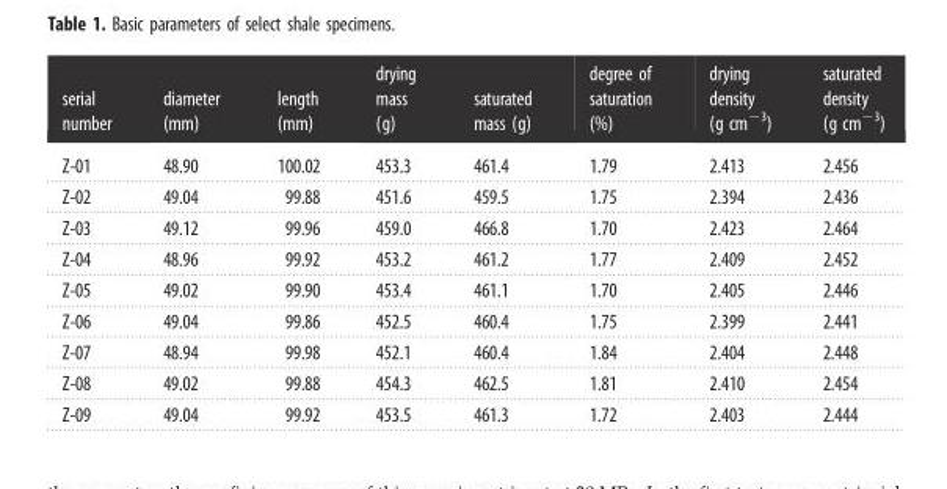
<table><thead><tr><td>serial number</td><td>diameter (mm)</td><td>length (mm)</td><td>drying mass (g)</td><td>saturated mass (g)</td><td>degree of saturation (%)</td><td>drying density (g cm<sup>−3</sup>)</td><td>saturated density (g cm<sup>−3</sup>)</td></tr></thead><tbody><tr><td>Z-01</td><td>48.90</td><td>100.02</td><td>453.3</td><td>461.4</td><td>1.79</td><td>2.413</td><td>2.456</td></tr><tr><td>Z-02</td><td>49.04</td><td>99.88</td><td>451.6</td><td>459.5</td><td>1.75</td><td>2.394</td><td>2.436</td></tr><tr><td>Z-03</td><td>49.12</td><td>99.96</td><td>459.0</td><td>466.8</td><td>1.70</td><td>2.423</td><td>2.464</td></tr><tr><td>Z-04</td><td>48.96</td><td>99.92</td><td>453.2</td><td>461.2</td><td>1.77</td><td>2.409</td><td>2.452</td></tr><tr><td>Z-05</td><td>49.02</td><td>99.90</td><td>453.4</td><td>461.1</td><td>1.70</td><td>2.405</td><td>2.446</td></tr><tr><td>Z-06</td><td>49.04</td><td>99.86</td><td>452.5</td><td>460.4</td><td>1.75</td><td>2.399</td><td>2.441</td></tr><tr><td>Z-07</td><td>48.94</td><td>99.98</td><td>452.1</td><td>460.4</td><td>1.84</td><td>2.404</td><td>2.448</td></tr><tr><td>Z-08</td><td>49.02</td><td>99.88</td><td>454.3</td><td>462.5</td><td>1.81</td><td>2.410</td><td>2.454</td></tr><tr><td>Z-09</td><td>49.04</td><td>99.92</td><td>453.5</td><td>461.3</td><td>1.72</td><td>2.403</td><td>2.444</td></tr></tbody></table>